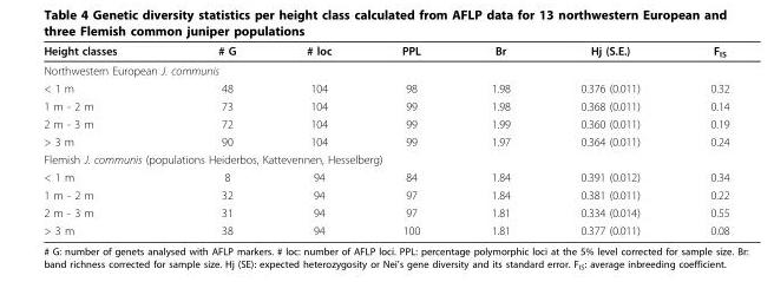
<table><thead><tr><td>Height classes</td><td># G</td><td># loc</td><td>PPL</td><td>Br</td><td>Hj (S.E.)</td><td>F<sub>IS</sub></td></tr></thead><tbody><tr><td colspan="7">Northwestern European J. communis</td></tr><tr><td>&lt; 1 m</td><td>48</td><td>104</td><td>98</td><td>1.98</td><td>0.376 (0.011)</td><td>0.32</td></tr><tr><td>1 m - 2 m</td><td>73</td><td>104</td><td>99</td><td>1.98</td><td>0.368 (0.011)</td><td>0.14</td></tr><tr><td>2 m - 3 m</td><td>72</td><td>104</td><td>99</td><td>1.99</td><td>0.360 (0.011)</td><td>0.19</td></tr><tr><td>&gt; 3 m</td><td>90</td><td>104</td><td>99</td><td>1.97</td><td>0.364 (0.011)</td><td>0.24</td></tr><tr><td colspan="7">Flemish J. communis (populations Heiderbos, Kattevennen, Hesselberg)</td></tr><tr><td>&lt; 1 m</td><td>8</td><td>94</td><td>84</td><td>1.84</td><td>0.391 (0.012)</td><td>0.34</td></tr><tr><td>1 m - 2 m</td><td>32</td><td>94</td><td>97</td><td>1.84</td><td>0.381 (0.011)</td><td>0.22</td></tr><tr><td>2 m - 3 m</td><td>31</td><td>94</td><td>97</td><td>1.81</td><td>0.334 (0.014)</td><td>0.55</td></tr><tr><td>&gt; 3 m</td><td>38</td><td>94</td><td>100</td><td>1.81</td><td>0.377 (0.011)</td><td>0.08</td></tr></tbody></table>